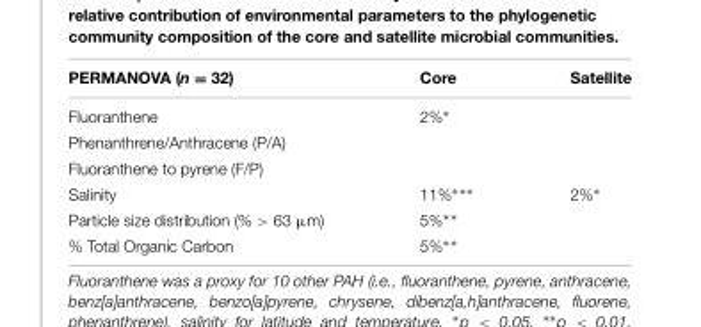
<table><thead><tr><td>PERMANOVA (n = 32)</td><td>Core</td><td>Satellite</td></tr></thead><tbody><tr><td>Fluoranthene</td><td>2%∗</td><td></td></tr><tr><td colspan="3">Phenanthrene/Anthracene (P/A)</td></tr><tr><td colspan="3">Fluoranthene to pyrene (F/P)</td></tr><tr><td>Salinity</td><td>11%∗∗∗</td><td>2%∗</td></tr><tr><td>Particle size distribution (% &gt; 63 µm)</td><td>5%∗∗</td><td></td></tr><tr><td>% Total Organic Carbon</td><td>5%∗∗</td><td></td></tr></tbody></table>